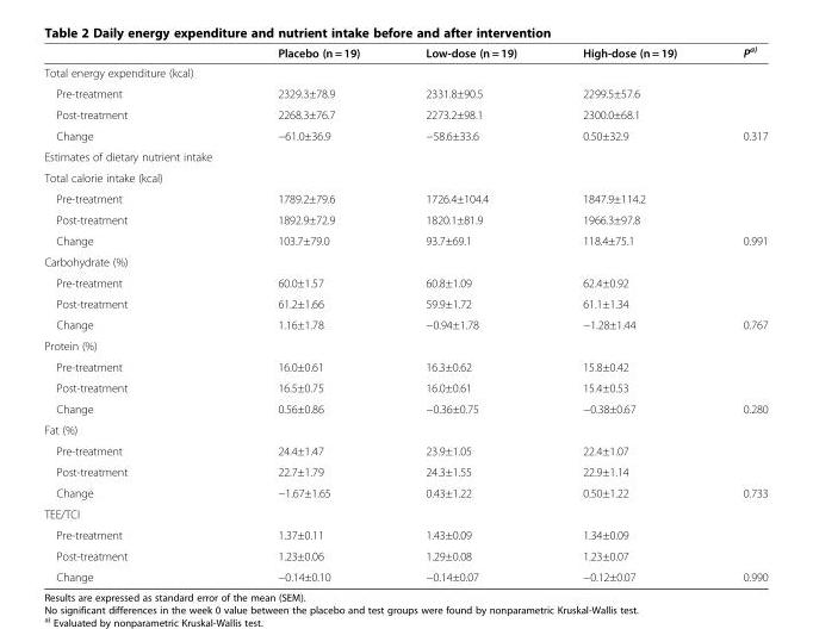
<table><thead><tr><td></td><td>Placebo (n = 19)</td><td>Low-dose (n = 19)</td><td>High-dose (n = 19)</td><td>P<sup>a)</sup></td></tr></thead><tbody><tr><td colspan="5">Total energy expenditure (kcal)</td></tr><tr><td>Pre-treatment</td><td>2329.3±78.9</td><td>2331.8±90.5</td><td>2299.5±57.6</td><td></td></tr><tr><td>Post-treatment</td><td>2268.3±76.7</td><td>2273.2±98.1</td><td>2300.0±68.1</td><td></td></tr><tr><td>Change</td><td>−61.0±36.9</td><td>−58.6±33.6</td><td>0.50±32.9</td><td>0.317</td></tr><tr><td colspan="5">Estimates of dietary nutrient intake</td></tr><tr><td colspan="5">Total calorie intake (kcal)</td></tr><tr><td>Pre-treatment</td><td>1789.2±79.6</td><td>1726.4±104.4</td><td>1847.9±114.2</td><td></td></tr><tr><td>Post-treatment</td><td>1892.9±72.9</td><td>1820.1±81.9</td><td>1966.3±97.8</td><td></td></tr><tr><td>Change</td><td>103.7±79.0</td><td>93.7±69.1</td><td>118.4±75.1</td><td>0.991</td></tr><tr><td colspan="5">Carbohydrate (%)</td></tr><tr><td>Pre-treatment</td><td>60.0±1.57</td><td>60.8±1.09</td><td>62.4±0.92</td><td></td></tr><tr><td>Post-treatment</td><td>61.2±1.66</td><td>59.9±1.72</td><td>61.1±1.34</td><td></td></tr><tr><td>Change</td><td>1.16±1.78</td><td>−0.94±1.78</td><td>−1.28±1.44</td><td>0.767</td></tr><tr><td colspan="5">Protein (%)</td></tr><tr><td>Pre-treatment</td><td>16.0±0.61</td><td>16.3±0.62</td><td>15.8±0.42</td><td></td></tr><tr><td>Post-treatment</td><td>16.5±0.75</td><td>16.0±0.61</td><td>15.4±0.53</td><td></td></tr><tr><td>Change</td><td>0.56±0.86</td><td>−0.36±0.75</td><td>−0.38±0.67</td><td>0.280</td></tr><tr><td colspan="5">Fat (%)</td></tr><tr><td>Pre-treatment</td><td>24.4±1.47</td><td>23.9±1.05</td><td>22.4±1.07</td><td></td></tr><tr><td>Post-treatment</td><td>22.7±1.79</td><td>24.3±1.55</td><td>22.9±1.14</td><td></td></tr><tr><td>Change</td><td>−1.67±1.65</td><td>0.43±1.22</td><td>0.50±1.22</td><td>0.733</td></tr><tr><td colspan="5">TEE/TCI</td></tr><tr><td>Pre-treatment</td><td>1.37±0.11</td><td>1.43±0.09</td><td>1.34±0.09</td><td></td></tr><tr><td>Post-treatment</td><td>1.23±0.06</td><td>1.29±0.08</td><td>1.23±0.07</td><td></td></tr><tr><td>Change</td><td>−0.14±0.10</td><td>−0.14±0.07</td><td>−0.12±0.07</td><td>0.990</td></tr></tbody></table>